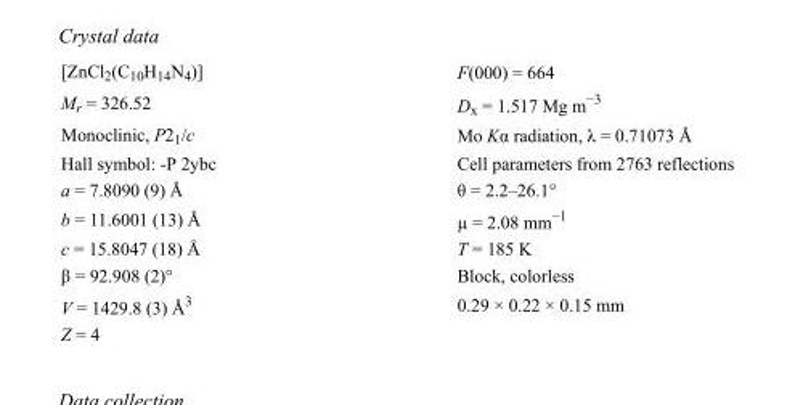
<table><tbody><tr><td>[ZnCl<sub>2</sub>(C<sub>10</sub>H<sub>14</sub>N<sub>4</sub>)]</td><td>F(000) = 664</td></tr><tr><td>M<sub>r</sub> = 326.52</td><td>D<sub>x</sub> = 1.517 Mg m<sup>−3</sup></td></tr><tr><td>Monoclinic, P2<sub>1</sub>/c</td><td>Mo Kα radiation, λ = 0.71073 Å</td></tr><tr><td>Hall symbol: -P 2ybc</td><td>Cell parameters from 2763 reflections</td></tr><tr><td>a = 7.8090 (9) Å</td><td>θ = 2.2–26.1°</td></tr><tr><td>b = 11.6001 (13) Å</td><td>µ = 2.08 mm<sup>−1</sup></td></tr><tr><td>c = 15.8047 (18) Å</td><td>T = 185 K</td></tr><tr><td>β = 92.908 (2)°</td><td>Block, colorless</td></tr><tr><td>V = 1429.8 (3) Å<sup>3</sup></td><td>0.29 × 0.22 × 0.15 mm</td></tr><tr><td>Z = 4</td><td></td></tr></tbody></table>